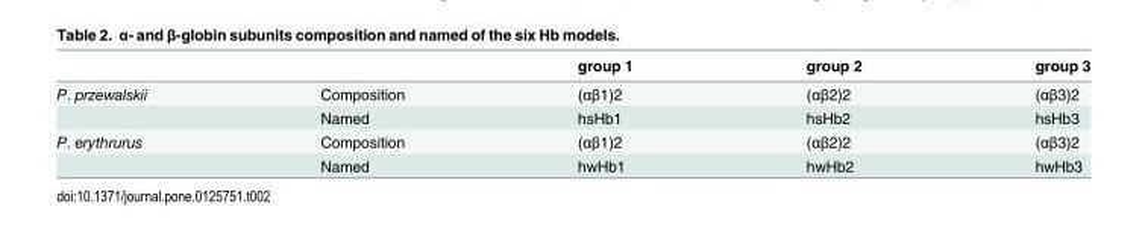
<table><thead><tr><td></td><td></td><td>group 1</td><td>group 2</td><td>group 3</td></tr></thead><tbody><tr><td rowspan="2">P. przewalskii</td><td>Composition</td><td>(αβ1)2</td><td>(αβ2)2</td><td>(αβ3)2</td></tr><tr><td>Named</td><td>hsHb1</td><td>hsHb2</td><td>hsHb3</td></tr><tr><td rowspan="2">P. erythrurus</td><td>Composition</td><td>(αβ1)2</td><td>(αβ2)2</td><td>(αβ3)2</td></tr><tr><td>Named</td><td>hwHb1</td><td>hwHb2</td><td>hwHb3</td></tr></tbody></table>